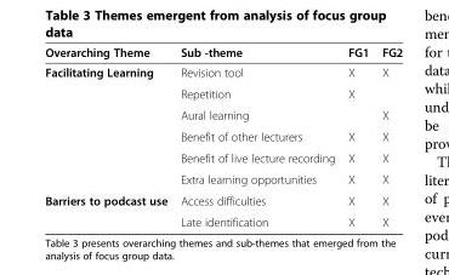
<table><thead><tr><td>Overarching Theme</td><td>Sub -theme</td><td>FG1</td><td>FG2</td></tr></thead><tbody><tr><td rowspan="6">Facilitating Learning</td><td>Revision tool</td><td>X</td><td>X</td></tr><tr><td>Repetition</td><td>X</td><td></td></tr><tr><td>Aural learning</td><td></td><td>X</td></tr><tr><td>Benefit of other lecturers</td><td>X</td><td>X</td></tr><tr><td>Benefit of live lecture recording</td><td>X</td><td>X</td></tr><tr><td>Extra learning opportunities</td><td>X</td><td>X</td></tr><tr><td rowspan="2">Barriers to podcast use</td><td>Access difficulties</td><td>X</td><td>X</td></tr><tr><td>Late identification</td><td>X</td><td>X</td></tr></tbody></table>